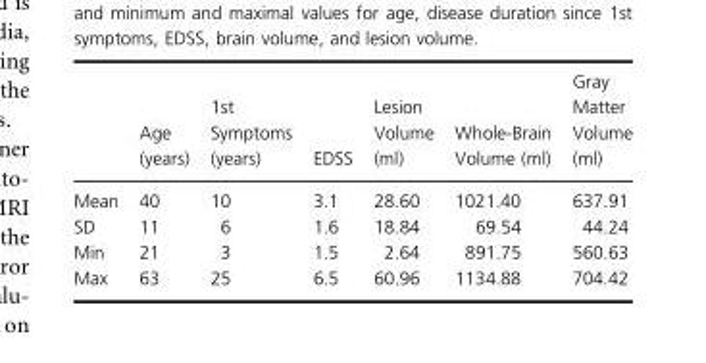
<table><thead><tr><td></td><td>Age (years)</td><td>1st Symptoms (years)</td><td>EDSS</td><td>Lesion Volume (ml)</td><td>Whole-Brain Volume (ml)</td><td>Gray Matter Volume (ml)</td></tr></thead><tbody><tr><td>Mean</td><td>40</td><td>10</td><td>3.1</td><td>28.60</td><td>1021.40</td><td>637.91</td></tr><tr><td>SD</td><td>11</td><td>6</td><td>1.6</td><td>18.84</td><td>69.54</td><td>44.24</td></tr><tr><td>Min</td><td>21</td><td>3</td><td>1.5</td><td>2.64</td><td>891.75</td><td>560.63</td></tr><tr><td>Max</td><td>63</td><td>25</td><td>6.5</td><td>60.96</td><td>1134.88</td><td>704.42</td></tr></tbody></table>